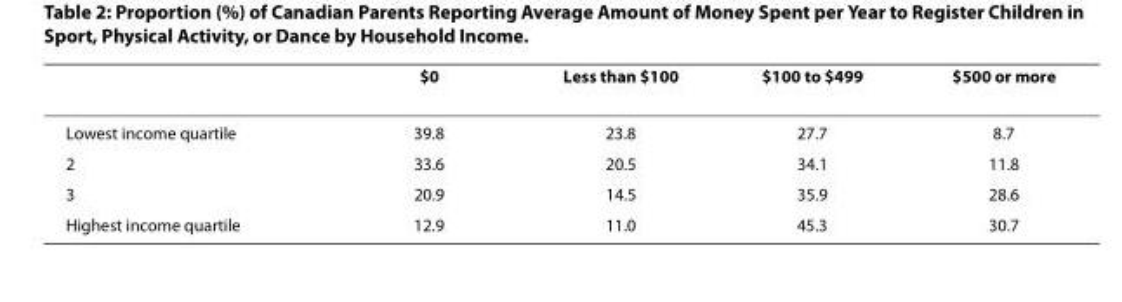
<table><thead><tr><td></td><td>$0</td><td>Less than $100</td><td>$100 to $499</td><td>$500 or more</td></tr></thead><tbody><tr><td>Lowest income quartile</td><td>39.8</td><td>23.8</td><td>27.7</td><td>8.7</td></tr><tr><td>2</td><td>33.6</td><td>20.5</td><td>34.1</td><td>11.8</td></tr><tr><td>3</td><td>20.9</td><td>14.5</td><td>35.9</td><td>28.6</td></tr><tr><td>Highest income quartile</td><td>12.9</td><td>11.0</td><td>45.3</td><td>30.7</td></tr></tbody></table>